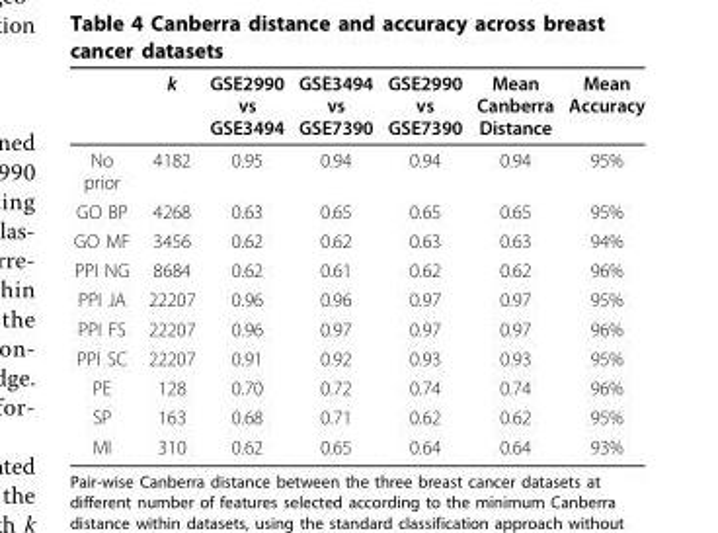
<table><thead><tr><td></td><td>k</td><td>GSE2990 vs GSE3494</td><td>GSE3494 vs GSE7390</td><td>GSE2990 vs GSE7390</td><td>Mean Canberra Distance</td><td>Mean Accuracy</td></tr></thead><tbody><tr><td>No prior</td><td>4182</td><td>0.95</td><td>0.94</td><td>0.94</td><td>0.94</td><td>95%</td></tr><tr><td>GO BP</td><td>4268</td><td>0.63</td><td>0.65</td><td>0.65</td><td>0.65</td><td>95%</td></tr><tr><td>GO MF</td><td>3456</td><td>0.62</td><td>0.62</td><td>0.63</td><td>0.63</td><td>94%</td></tr><tr><td>PPI NG</td><td>8684</td><td>0.62</td><td>0.61</td><td>0.62</td><td>0.62</td><td>96%</td></tr><tr><td>PPI JA</td><td>22207</td><td>0.96</td><td>0.96</td><td>0.97</td><td>0.97</td><td>95%</td></tr><tr><td>PPI FS</td><td>22207</td><td>0.96</td><td>0.97</td><td>0.97</td><td>0.97</td><td>96%</td></tr><tr><td>PPI SC</td><td>22207</td><td>0.91</td><td>0.92</td><td>0.93</td><td>0.93</td><td>95%</td></tr><tr><td>PE</td><td>128</td><td>0.70</td><td>0.72</td><td>0.74</td><td>0.74</td><td>96%</td></tr><tr><td>SP</td><td>163</td><td>0.68</td><td>0.71</td><td>0.62</td><td>0.62</td><td>95%</td></tr><tr><td>MI</td><td>310</td><td>0.62</td><td>0.65</td><td>0.64</td><td>0.64</td><td>93%</td></tr></tbody></table>